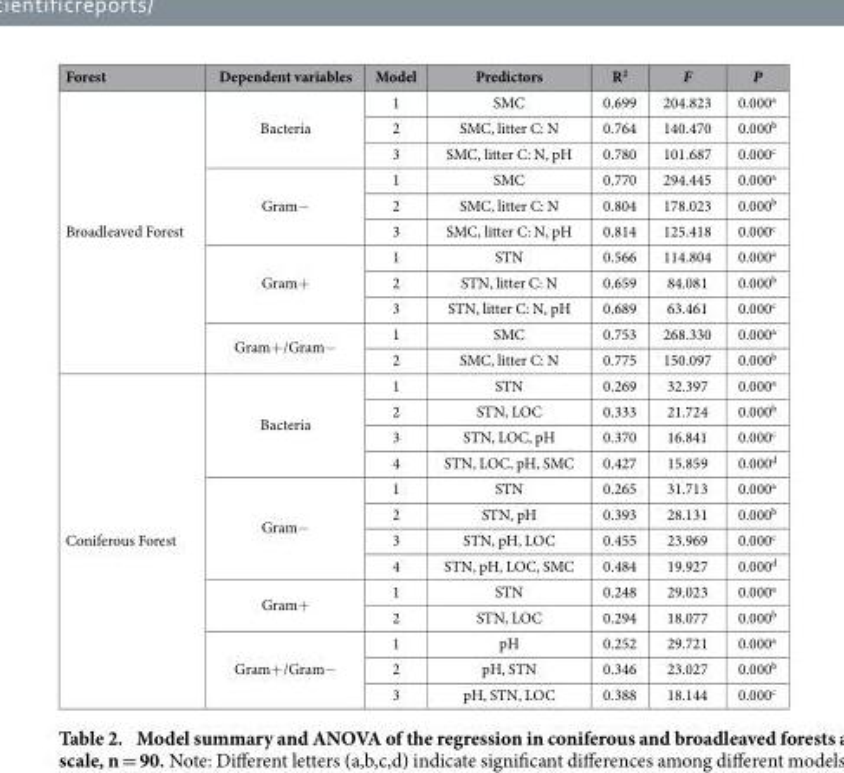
<table><thead><tr><td>Forest</td><td>Dependent variables</td><td>Model</td><td>Predictors</td><td>R<sup>2</sup></td><td>F</td><td>P</td></tr></thead><tbody><tr><td rowspan="11">Broadleaved Forest</td><td rowspan="3">Bacteria</td><td>1</td><td>SMC</td><td>0.699</td><td>204.823</td><td>0.000<sup>a</sup></td></tr><tr><td>2</td><td>SMC, litter C: N</td><td>0.764</td><td>140.470</td><td>0.000<sup>b</sup></td></tr><tr><td>3</td><td>SMC, litter C: N, pH</td><td>0.780</td><td>101.687</td><td>0.000<sup>c</sup></td></tr><tr><td rowspan="3">Gram−</td><td>1</td><td>SMC</td><td>0.770</td><td>294.445</td><td>0.000<sup>a</sup></td></tr><tr><td>2</td><td>SMC, litter C: N</td><td>0.804</td><td>178.023</td><td>0.000<sup>b</sup></td></tr><tr><td>3</td><td>SMC, litter C: N, pH</td><td>0.814</td><td>125.418</td><td>0.000<sup>c</sup></td></tr><tr><td rowspan="3">Gram+</td><td>1</td><td>STN</td><td>0.566</td><td>114.804</td><td>0.000<sup>a</sup></td></tr><tr><td>2</td><td>STN, litter C: N</td><td>0.659</td><td>84.081</td><td>0.000<sup>b</sup></td></tr><tr><td>3</td><td>STN, litter C: N, pH</td><td>0.689</td><td>63.461</td><td>0.000<sup>c</sup></td></tr><tr><td rowspan="2">Gram+ /Gram−</td><td>1</td><td>SMC</td><td>0.753</td><td>268.330</td><td>0.000<sup>a</sup></td></tr><tr><td>2</td><td>SMC, litter C: N</td><td>0.775</td><td>150.097</td><td>0.000<sup>b</sup></td></tr><tr><td rowspan="13">Coniferous Forest</td><td rowspan="4">Bacteria</td><td>1</td><td>STN</td><td>0.269</td><td>32.397</td><td>0.000<sup>a</sup></td></tr><tr><td>2</td><td>STN, LOC</td><td>0.333</td><td>21.724</td><td>0.000<sup>b</sup></td></tr><tr><td>3</td><td>STN, LOC, pH</td><td>0.370</td><td>16.841</td><td>0.000<sup>c</sup></td></tr><tr><td>4</td><td>STN, LOC, pH, SMC</td><td>0.427</td><td>15.859</td><td>0.000<sup>d</sup></td></tr><tr><td rowspan="4">Gram−</td><td>1</td><td>STN</td><td>0.265</td><td>31.713</td><td>0.000<sup>a</sup></td></tr><tr><td>2</td><td>STN, pH</td><td>0.393</td><td>28.131</td><td>0.000<sup>b</sup></td></tr><tr><td>3</td><td>STN, pH, LOC</td><td>0.455</td><td>23.969</td><td>0.000<sup>c</sup></td></tr><tr><td>4</td><td>STN, pH, LOC, SMC</td><td>0.484</td><td>19.927</td><td>0.000<sup>d</sup></td></tr><tr><td rowspan="2">Gram+</td><td>1</td><td>STN</td><td>0.248</td><td>29.023</td><td>0.000<sup>a</sup></td></tr><tr><td>2</td><td>STN, LOC</td><td>0.294</td><td>18.077</td><td>0.000<sup>b</sup></td></tr><tr><td rowspan="3">Gram+ /Gram−</td><td>1</td><td>pH</td><td>0.252</td><td>29.721</td><td>0.000<sup>a</sup></td></tr><tr><td>2</td><td>pH, STN</td><td>0.346</td><td>23.027</td><td>0.000<sup>b</sup></td></tr><tr><td>3</td><td>pH, STN, LOC</td><td>0.388</td><td>18.144</td><td>0.000<sup>c</sup></td></tr></tbody></table>